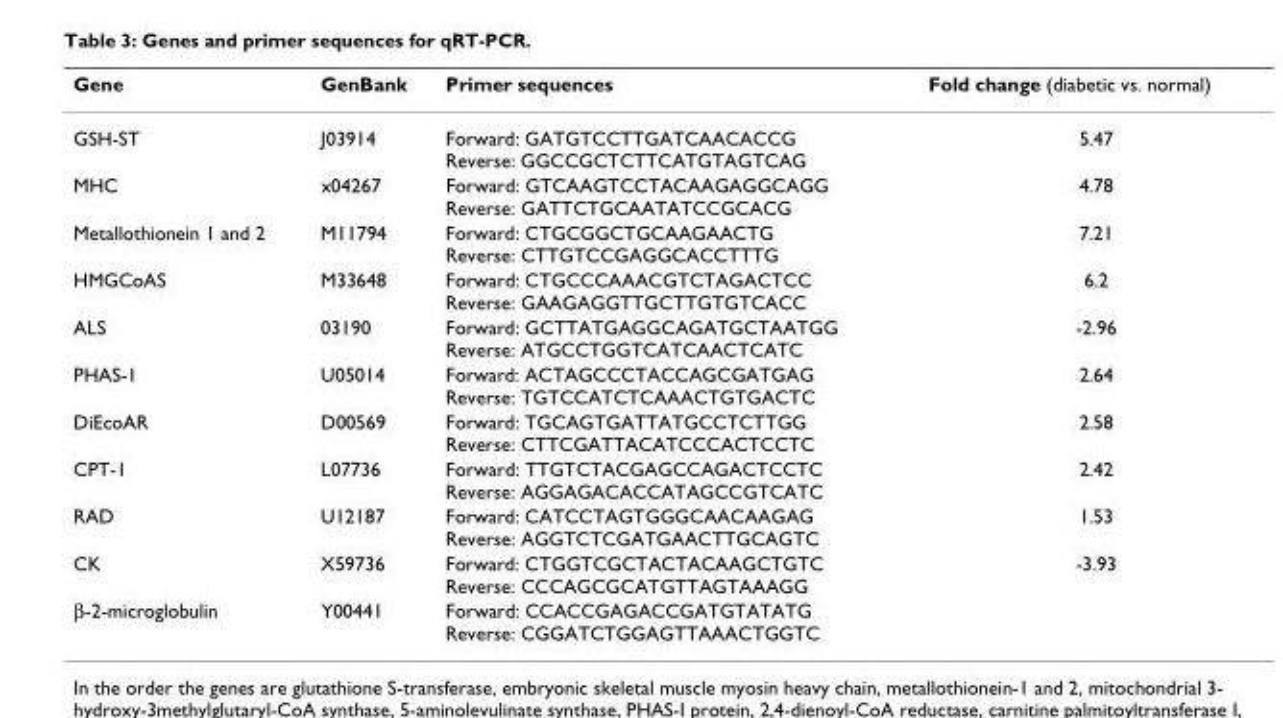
<table><thead><tr><td>Gene</td><td>GenBank</td><td>Primer sequences</td><td>Fold change (diabetic vs. normal)</td></tr></thead><tbody><tr><td>GSH-ST</td><td>J03914</td><td>Forward: GATGTCCTTGATCAACACCG Reverse: GGCCGCTCTTCATGTAGTCAG</td><td>5.47</td></tr><tr><td>MHC</td><td>x04267</td><td>Forward: GTCAAGTCCTACAAGAGGCAGG Reverse: GATTCTGCAATATCCGCACG</td><td>4.78</td></tr><tr><td>Metallothionein 1 and 2</td><td>M11794</td><td>Forward: CTGCGGCTGCAAGAACTG Reverse: CTTGTCCGAGGCACCTTTG</td><td>7.21</td></tr><tr><td>HMGCoAS</td><td>M33648</td><td>Forward: CTGCCCAAACGTCTAGACTCC Reverse: GAAGAGGTTGCTTGTGTCACC</td><td>6.2</td></tr><tr><td>ALS</td><td>03190</td><td>Forward: GCTTATGAGGCAGATGCTAATGG Reverse: ATGCCTGGTCATCAACTCATC</td><td>-2.96</td></tr><tr><td>PHAS-1</td><td>U05014</td><td>Forward: ACTAGCCCTACCAGCGATGAG Reverse: TGTCCATCTCAAACTGTGACTC</td><td>2.64</td></tr><tr><td>DiEcoAR</td><td>D00569</td><td>Forward: TGCAGTGATTATGCCTCTTGG Reverse: CTTCGATTACATCCCACTCCTC</td><td>2.58</td></tr><tr><td>CPT-1</td><td>L07736</td><td>Forward: TTGTCTACGAGCCAGACTCCTC Reverse: AGGAGACACCATAGCCGTCATC</td><td>2.42</td></tr><tr><td>RAD</td><td>U12187</td><td>Forward: CATCCTAGTGGGCAACAAGAG Reverse: AGGTCTCGATGAACTTGCAGTC</td><td>1.53</td></tr><tr><td>CK</td><td>X59736</td><td>Forward: CTGGTCGCTACTACAAGCTGTC Reverse: CCCAGCGCATGTTAGTAAAGG</td><td>-3.93</td></tr><tr><td>β-2-microglobulin</td><td>Y00441</td><td>Forward: CCACCGAGACCGATGTATATG Reverse: CGGATCTGGAGTTAAACTGGTC</td><td></td></tr></tbody></table>